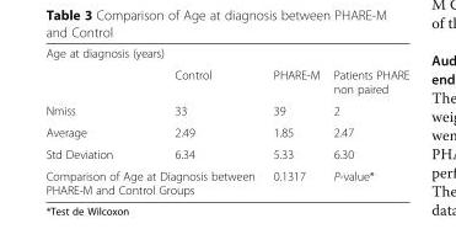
<table><tbody><tr><td colspan="4">Age at diagnosis (years)</td></tr><tr><td></td><td>Control</td><td>PHARE-M</td><td>Patients PHARE non paired</td></tr><tr><td>Nmiss</td><td>33</td><td>39</td><td>2</td></tr><tr><td>Average</td><td>2.49</td><td>1.85</td><td>2.47</td></tr><tr><td>Std Deviation</td><td>6.34</td><td>5.33</td><td>6.30</td></tr><tr><td colspan="2">Comparison of Age at Diagnosis between PHARE-M and Control Groups</td><td>0.1317</td><td>P-value*</td></tr></tbody></table>